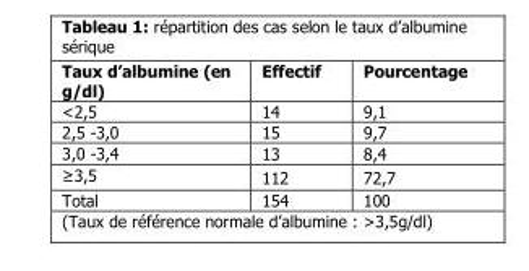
<table><thead><tr><td>Taux d’albumine (en g/dl)</td><td>Effectif</td><td>Pourcentage</td></tr></thead><tbody><tr><td>&lt;2,5</td><td>14</td><td>9,1</td></tr><tr><td>2,5 -3,0</td><td>15</td><td>9,7</td></tr><tr><td>3,0 -3,4</td><td>13</td><td>8,4</td></tr><tr><td>≥3,5</td><td>112</td><td>72,7</td></tr><tr><td>Total</td><td>154</td><td>100</td></tr></tbody></table>